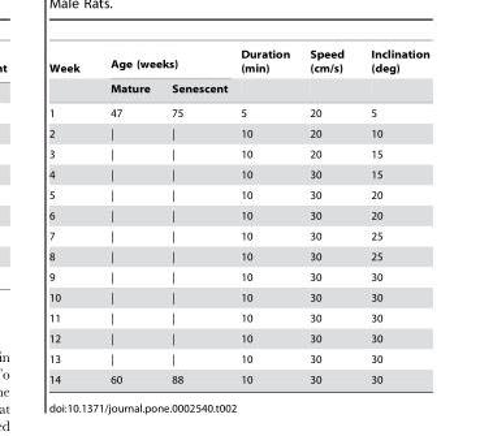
<table><thead><tr><td rowspan="2">Week</td><td colspan="2">Age (weeks)</td><td rowspan="2">Duration (min)</td><td rowspan="2">Speed (cm/s)</td><td rowspan="2">Inclination (deg)</td></tr><tr><td>Mature</td><td>Senescent</td></tr></thead><tbody><tr><td>1</td><td>47</td><td>75</td><td>5</td><td>20</td><td>5</td></tr><tr><td>2</td><td>|</td><td>|</td><td>10</td><td>20</td><td>10</td></tr><tr><td>3</td><td>|</td><td>|</td><td>10</td><td>20</td><td>15</td></tr><tr><td>4</td><td>|</td><td>|</td><td>10</td><td>30</td><td>15</td></tr><tr><td>5</td><td>|</td><td>|</td><td>10</td><td>30</td><td>20</td></tr><tr><td>6</td><td>|</td><td>|</td><td>10</td><td>30</td><td>20</td></tr><tr><td>7</td><td>|</td><td>|</td><td>10</td><td>30</td><td>25</td></tr><tr><td>8</td><td>|</td><td>|</td><td>10</td><td>30</td><td>25</td></tr><tr><td>9</td><td>|</td><td>|</td><td>10</td><td>30</td><td>30</td></tr><tr><td>10</td><td>|</td><td>|</td><td>10</td><td>30</td><td>30</td></tr><tr><td>11</td><td>|</td><td>|</td><td>10</td><td>30</td><td>30</td></tr><tr><td>12</td><td>|</td><td>|</td><td>10</td><td>30</td><td>30</td></tr><tr><td>13</td><td>|</td><td>|</td><td>10</td><td>30</td><td>30</td></tr><tr><td>14</td><td>60</td><td>88</td><td>10</td><td>30</td><td>30</td></tr></tbody></table>